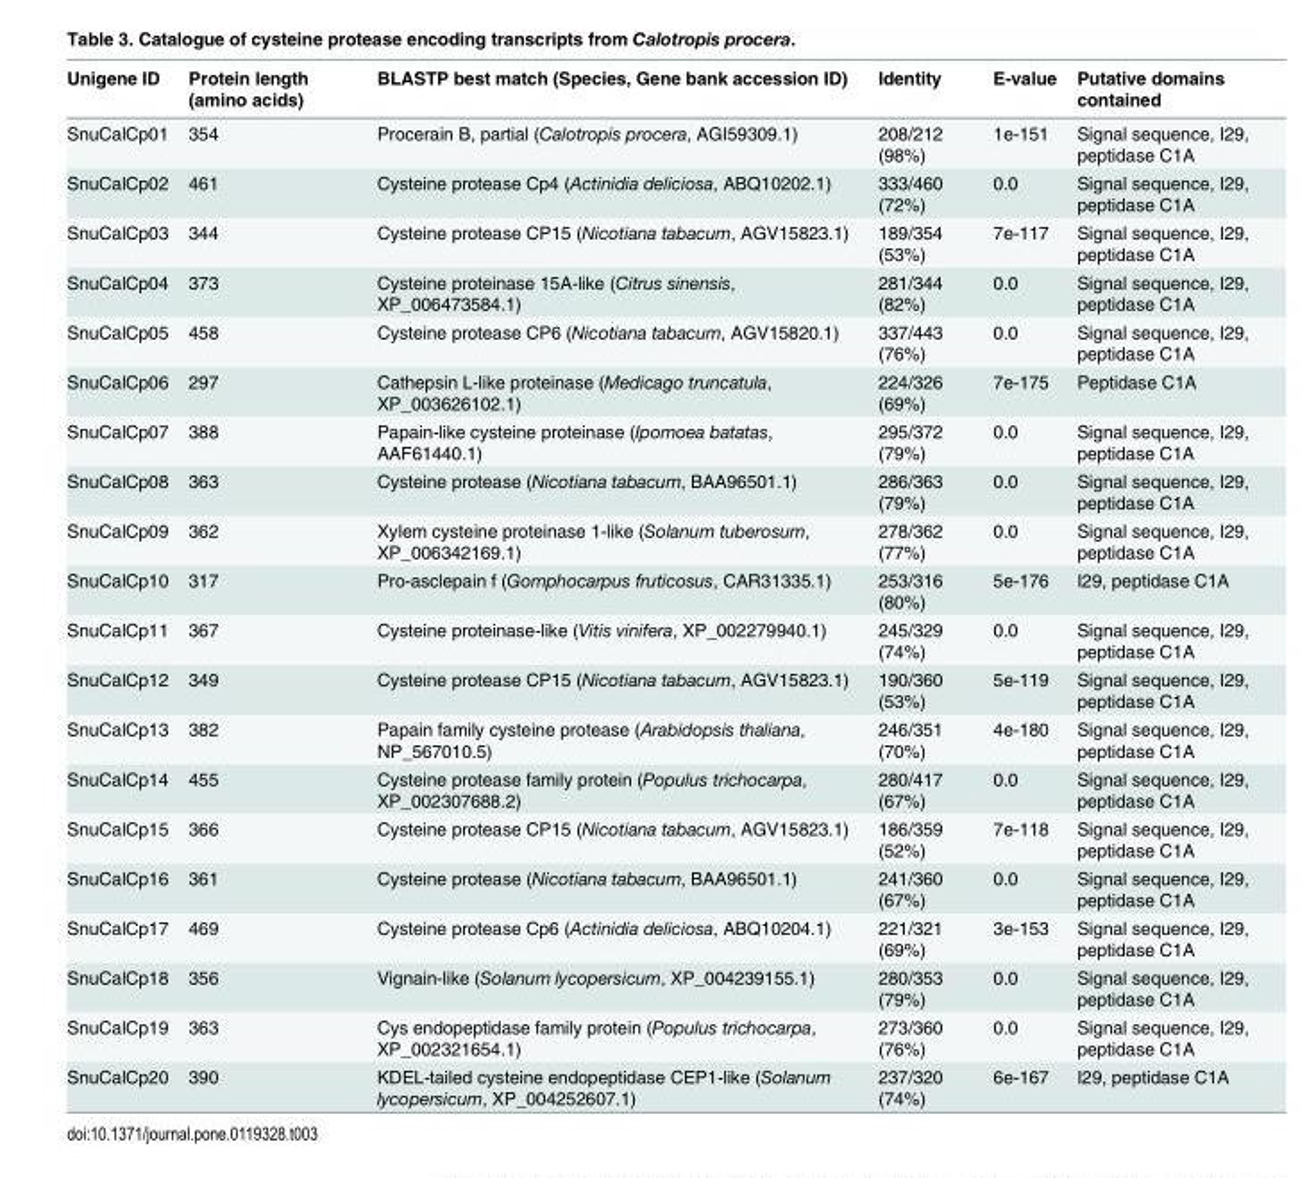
<table><thead><tr><td>Unigene ID</td><td>Protein length (amino acids)</td><td>BLASTP best match (Species, Gene bank accession ID)</td><td>Identity</td><td>E-value</td><td>Putative domains contained</td></tr></thead><tbody><tr><td>SnuCalCp01</td><td>354</td><td>Procerain B, partial (Calotropis procera, AGI59309.1)</td><td>208/212 (98%)</td><td>1e-151</td><td>Signal sequence, I29, peptidase C1A</td></tr><tr><td>SnuCalCp02</td><td>461</td><td>Cysteine protease Cp4 (Actinidia deliciosa, ABQ10202.1)</td><td>333/460 (72%)</td><td>0.0</td><td>Signal sequence, I29, peptidase C1A</td></tr><tr><td>SnuCalCp03</td><td>344</td><td>Cysteine protease CP15 (Nicotiana tabacum, AGV15823.1)</td><td>189/354 (53%)</td><td>7e-117</td><td>Signal sequence, I29, peptidase C1A</td></tr><tr><td>SnuCalCp04</td><td>373</td><td>Cysteine proteinase 15A-like (Citrus sinensis, XP_006473584.1)</td><td>281/344 (82%)</td><td>0.0</td><td>Signal sequence, I29, peptidase C1A</td></tr><tr><td>SnuCalCp05</td><td>458</td><td>Cysteine protease CP6 (Nicotiana tabacum, AGV15820.1)</td><td>337/443 (76%)</td><td>0.0</td><td>Signal sequence, I29, peptidase C1A</td></tr><tr><td>SnuCalCp06</td><td>297</td><td>Cathepsin L-like proteinase (Medicago truncatula, XP_003626102.1)</td><td>224/326 (69%)</td><td>7e-175</td><td>Peptidase C1A</td></tr><tr><td>SnuCalCp07</td><td>388</td><td>Papain-like cysteine proteinase (Ipomoea batatas, AAF61440.1)</td><td>295/372 (79%)</td><td>0.0</td><td>Signal sequence, I29, peptidase C1A</td></tr><tr><td>SnuCalCp08</td><td>363</td><td>Cysteine protease (Nicotiana tabacum, BAA96501.1)</td><td>286/363 (79%)</td><td>0.0</td><td>Signal sequence, I29, peptidase C1A</td></tr><tr><td>SnuCalCp09</td><td>362</td><td>Xylem cysteine proteinase 1-like (Solanum tuberosum, XP_006342169.1)</td><td>278/362 (77%)</td><td>0.0</td><td>Signal sequence, I29, peptidase C1A</td></tr><tr><td>SnuCalCp10</td><td>317</td><td>Pro-asclepain f (Gomphocarpus fruticosus, CAR31335.1)</td><td>253/316 (80%)</td><td>5e-176</td><td>I29, peptidase C1A</td></tr><tr><td>SnuCalCp11</td><td>367</td><td>Cysteine proteinase-like (Vitis vinifera, XP_002279940.1)</td><td>245/329 (74%)</td><td>0.0</td><td>Signal sequence, I29, peptidase C1A</td></tr><tr><td>SnuCalCp12</td><td>349</td><td>Cysteine protease CP15 (Nicotiana tabacum, AGV15823.1)</td><td>190/360 (53%)</td><td>5e-119</td><td>Signal sequence, I29, peptidase C1A</td></tr><tr><td>SnuCalCp13</td><td>382</td><td>Papain family cysteine protease (Arabidopsis thaliana, NP_567010.5)</td><td>246/351 (70%)</td><td>4e-180</td><td>Signal sequence, I29, peptidase C1A</td></tr><tr><td>SnuCalCp14</td><td>455</td><td>Cysteine protease family protein (Populus trichocarpa, XP_002307688.2)</td><td>280/417 (67%)</td><td>0.0</td><td>Signal sequence, I29, peptidase C1A</td></tr><tr><td>SnuCalCp15</td><td>366</td><td>Cysteine protease CP15 (Nicotiana tabacum, AGV15823.1)</td><td>186/359 (52%)</td><td>7e-118</td><td>Signal sequence, I29, peptidase C1A</td></tr><tr><td>SnuCalCp16</td><td>361</td><td>Cysteine protease (Nicotiana tabacum, BAA96501.1)</td><td>241/360 (67%)</td><td>0.0</td><td>Signal sequence, I29, peptidase C1A</td></tr><tr><td>SnuCalCp17</td><td>469</td><td>Cysteine protease Cp6 (Actinidia deliciosa, ABQ10204.1)</td><td>221/321 (69%)</td><td>3e-153</td><td>Signal sequence, I29, peptidase C1A</td></tr><tr><td>SnuCalCp18</td><td>356</td><td>Vignain-like (Solanum lycopersicum, XP_004239155.1)</td><td>280/353 (79%)</td><td>0.0</td><td>Signal sequence, I29, peptidase C1A</td></tr><tr><td>SnuCalCp19</td><td>363</td><td>Cys endopeptidase family protein (Populus trichocarpa, XP_002321654.1)</td><td>273/360 (76%)</td><td>0.0</td><td>Signal sequence, I29, peptidase C1A</td></tr><tr><td>SnuCalCp20</td><td>390</td><td>KDEL-tailed cysteine endopeptidase CEP1-like (Solanum lycopersicum, XP_004252607.1)</td><td>237/320 (74%)</td><td>6e-167</td><td>I29, peptidase C1A</td></tr></tbody></table>